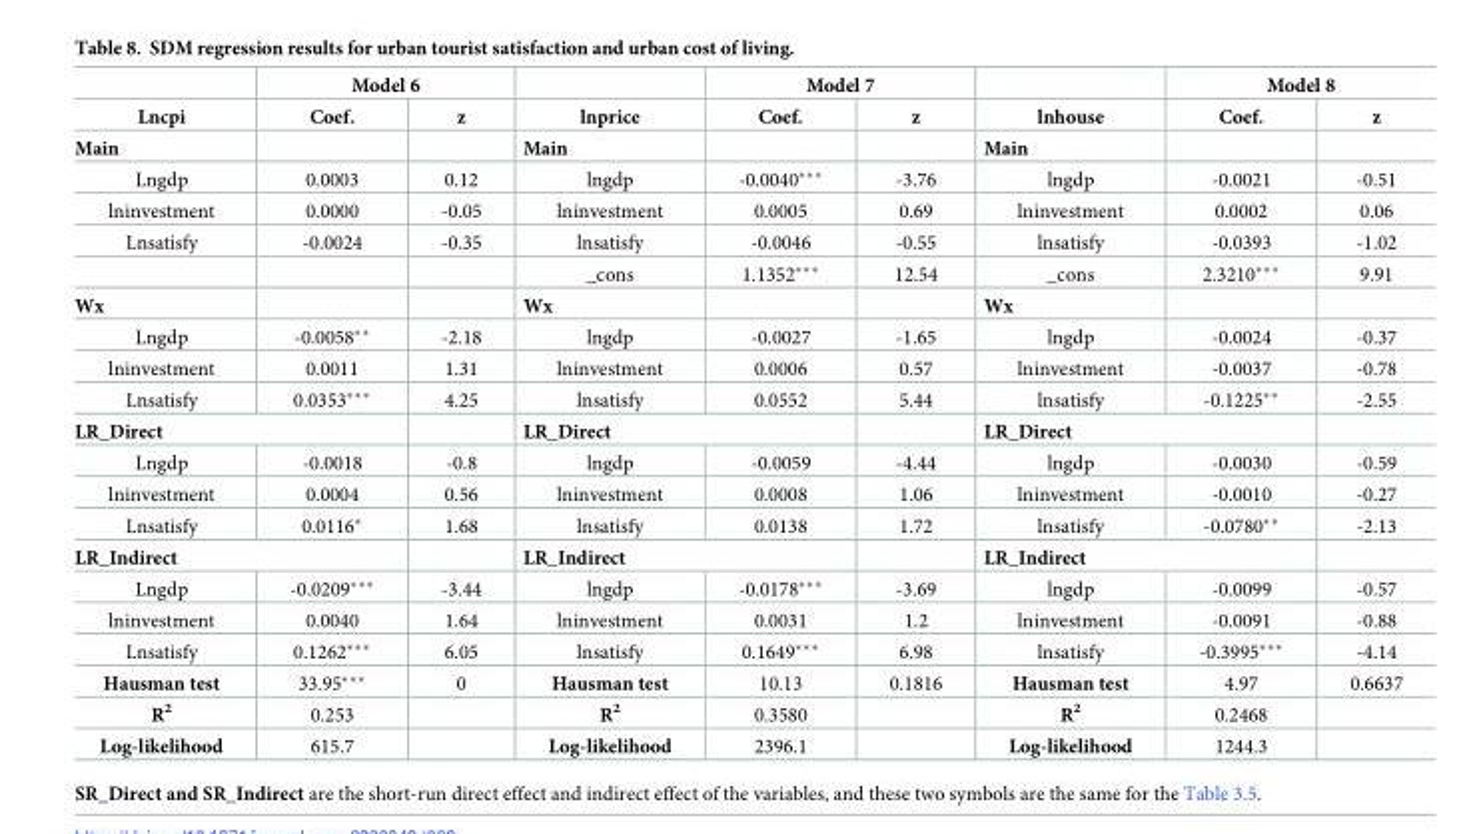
<table><thead><tr><td rowspan="2">Lncpi</td><td colspan="2">Model 6</td><td rowspan="2">lnprice</td><td colspan="2">Model 7</td><td rowspan="2">lnhouse</td><td colspan="2">Model 8</td></tr><tr><td>Coef.</td><td>z</td><td>Coef.</td><td>z</td><td>Coef.</td><td>z</td></tr></thead><tbody><tr><td>Main</td><td></td><td></td><td>Main</td><td></td><td></td><td>Main</td><td></td><td></td></tr><tr><td>Lngdp</td><td>0.0003</td><td>0.12</td><td>lngdp</td><td>-0.0040***</td><td>-3.76</td><td>lngdp</td><td>-0.0021</td><td>-0.51</td></tr><tr><td>lninvestment</td><td>0.0000</td><td>-0.05</td><td>lninvestment</td><td>0.0005</td><td>0.69</td><td>lninvestment</td><td>0.0002</td><td>0.06</td></tr><tr><td rowspan="2">Lnsatisfy</td><td>-0.0024</td><td>-0.35</td><td>lnsatisfy</td><td>-0.0046</td><td>-0.55</td><td>lnsatisfy</td><td>-0.0393</td><td>-1.02</td></tr><tr><td></td><td></td><td>_cons</td><td>1.1352***</td><td>12.54</td><td>_cons</td><td>2.3210***</td><td>9.91</td></tr><tr><td>Wx</td><td></td><td></td><td>Wx</td><td></td><td></td><td>Wx</td><td></td><td></td></tr><tr><td>Lngdp</td><td>-0.0058**</td><td>-2.18</td><td>lngdp</td><td>-0.0027</td><td>-1.65</td><td>lngdp</td><td>-0.0024</td><td>-0.37</td></tr><tr><td>lninvestment</td><td>0.0011</td><td>1.31</td><td>lninvestment</td><td>0.0006</td><td>0.57</td><td>lninvestment</td><td>-0.0037</td><td>-0.78</td></tr><tr><td>Lnsatisfy</td><td>0.0353***</td><td>4.25</td><td>lnsatisfy</td><td>0.0552</td><td>5.44</td><td>lnsatisfy</td><td>-0.1225**</td><td>-2.55</td></tr><tr><td colspan="2">LR_Direct</td><td></td><td colspan="2">LR_Direct</td><td></td><td colspan="2">LR_Direct</td><td></td></tr><tr><td>Lngdp</td><td>-0.0018</td><td>-0.8</td><td>lngdp</td><td>-0.0059</td><td>-4.44</td><td>lngdp</td><td>-0.0030</td><td>-0.59</td></tr><tr><td>lninvestment</td><td>0.0004</td><td>0.56</td><td>lninvestment</td><td>0.0008</td><td>1.06</td><td>lninvestment</td><td>-0.0010</td><td>-0.27</td></tr><tr><td>Lnsatisfy</td><td>0.0116*</td><td>1.68</td><td>lnsatisfy</td><td>0.0138</td><td>1.72</td><td>lnsatisfy</td><td>-0.0780**</td><td>-2.13</td></tr><tr><td colspan="2">LR_Indirect</td><td></td><td colspan="2">LR_Indirect</td><td></td><td colspan="2">LR_Indirect</td><td></td></tr><tr><td>Lngdp</td><td>-0.0209***</td><td>-3.44</td><td>lngdp</td><td>-0.0178***</td><td>-3.69</td><td>lngdp</td><td>-0.0099</td><td>-0.57</td></tr><tr><td>lninvestment</td><td>0.0040</td><td>1.64</td><td>lninvestment</td><td>0.0031</td><td>1.2</td><td>lninvestment</td><td>-0.0091</td><td>-0.88</td></tr><tr><td>Lnsatisfy</td><td>0.1262***</td><td>6.05</td><td>lnsatisfy</td><td>0.1649***</td><td>6.98</td><td>lnsatisfy</td><td>-0.3995***</td><td>-4.14</td></tr><tr><td>Hausman test</td><td>33.95***</td><td>0</td><td>Hausman test</td><td>10.13</td><td>0.1816</td><td>Hausman test</td><td>4.97</td><td>0.6637</td></tr><tr><td>R<sup>2</sup></td><td>0.253</td><td></td><td>R<sup>2</sup></td><td>0.3580</td><td></td><td>R<sup>2</sup></td><td>0.2468</td><td></td></tr><tr><td>Log-likelihood</td><td>615.7</td><td></td><td>Log-likelihood</td><td>2396.1</td><td></td><td>Log-likelihood</td><td>1244.3</td><td></td></tr></tbody></table>